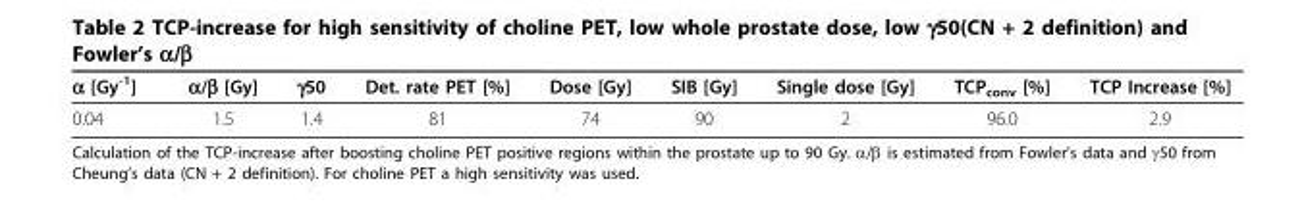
<table><thead><tr><td>α [Gy<sup>-1</sup>]</td><td>α/β [Gy]</td><td>γ50</td><td>Det. rate PET [%]</td><td>Dose [Gy]</td><td>SIB [Gy]</td><td>Single dose [Gy]</td><td>TCP<sub>conv</sub> [%]</td><td>TCP Increase [%]</td></tr></thead><tbody><tr><td>0.04</td><td>1.5</td><td>1.4</td><td>81</td><td>74</td><td>90</td><td>2</td><td>96.0</td><td>2.9</td></tr></tbody></table>